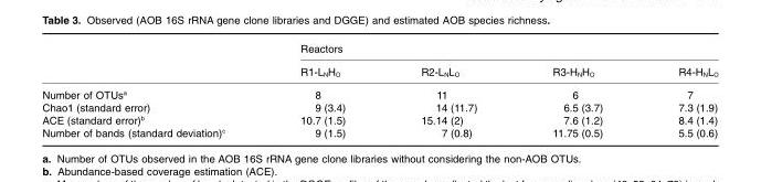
<table><thead><tr><td rowspan="2"></td><td colspan="4">Reactors</td></tr><tr><td>R1-L<sub>N</sub>H<sub>O</sub></td><td>R2-L<sub>N</sub>L<sub>O</sub></td><td>R3-H<sub>N</sub>H<sub>O</sub></td><td>R4-H<sub>N</sub>L<sub>O</sub></td></tr></thead><tbody><tr><td>Number of OTUs<sup>a</sup></td><td>8</td><td>11</td><td>6</td><td>7</td></tr><tr><td>Chao1 (standard error)</td><td>9 (3.4)</td><td>14 (11.7)</td><td>6.5 (3.7)</td><td>7.3 (1.9)</td></tr><tr><td>ACE (standard error)<sup>b</sup></td><td>10.7 (1.5)</td><td>15.14 (2)</td><td>7.6 (1.2)</td><td>8.4 (1.4)</td></tr><tr><td>Number of bands (standard deviation)<sup>c</sup></td><td>9 (1.5)</td><td>7 (0.8)</td><td>11.75 (0.5)</td><td>5.5 (0.6)</td></tr></tbody></table>